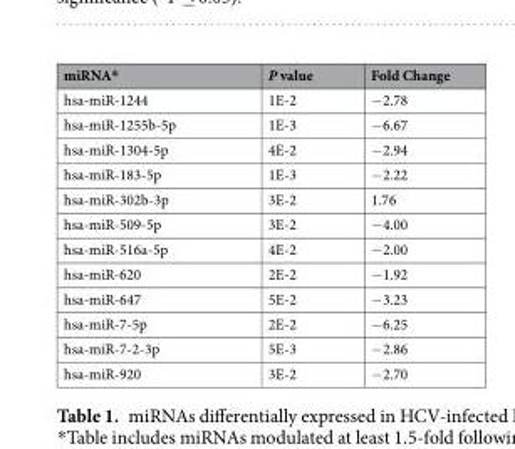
<table><thead><tr><td>miRNA*</td><td>P value</td><td>Fold Change</td></tr></thead><tbody><tr><td>hsa-miR-1244</td><td>1E-2</td><td>−2.78</td></tr><tr><td>hsa-miR-1255b-5p</td><td>1E-3</td><td>−6.67</td></tr><tr><td>hsa-miR-1304-5p</td><td>4E-2</td><td>−2.94</td></tr><tr><td>hsa-miR-183-5p</td><td>1E-3</td><td>−2.22</td></tr><tr><td>hsa-miR-302b-3p</td><td>3E-2</td><td>1.76</td></tr><tr><td>hsa-miR-509-5p</td><td>3E-2</td><td>−4.00</td></tr><tr><td>hsa-miR-516a-5p</td><td>4E-2</td><td>−2.00</td></tr><tr><td>hsa-miR-620</td><td>2E-2</td><td>−1.92</td></tr><tr><td>hsa-miR-647</td><td>5E-2</td><td>−3.23</td></tr><tr><td>hsa-miR-7-5p</td><td>2E-2</td><td>−6.25</td></tr><tr><td>hsa-miR-7-2-3p</td><td>5E-3</td><td>−2.86</td></tr><tr><td>hsa-miR-920</td><td>3E-2</td><td>−2.70</td></tr></tbody></table>